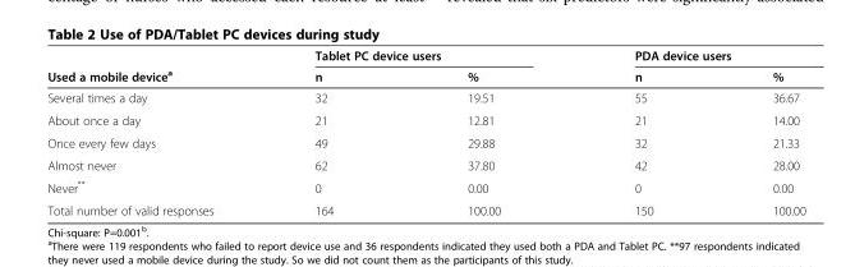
<table><thead><tr><td rowspan="2">Used a mobile device<sup>a</sup></td><td colspan="2">Tablet PC device users</td><td colspan="2">PDA device users</td></tr><tr><td>n</td><td>%</td><td>n</td><td>%</td></tr></thead><tbody><tr><td>Several times a day</td><td>32</td><td>19.51</td><td>55</td><td>36.67</td></tr><tr><td>About once a day</td><td>21</td><td>12.81</td><td>21</td><td>14.00</td></tr><tr><td>Once every few days</td><td>49</td><td>29.88</td><td>32</td><td>21.33</td></tr><tr><td>Almost never</td><td>62</td><td>37.80</td><td>42</td><td>28.00</td></tr><tr><td>Never**</td><td>0</td><td>0.00</td><td>0</td><td>0.00</td></tr><tr><td>Total number of valid responses</td><td>164</td><td>100.00</td><td>150</td><td>100.00</td></tr></tbody></table>